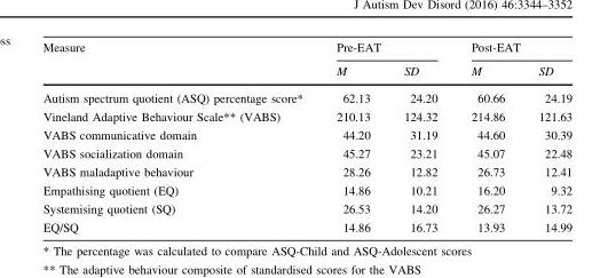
<table><thead><tr><td rowspan="2">Measure</td><td colspan="2">Pre-EAT</td><td colspan="2">Post-EAT</td></tr><tr><td>M</td><td>SD</td><td>M</td><td>SD</td></tr></thead><tbody><tr><td>Autism spectrum quotient (ASQ) percentage score*</td><td>62.13</td><td>24.20</td><td>60.66</td><td>24.19</td></tr><tr><td>Vineland Adaptive Behaviour Scale** (VABS)</td><td>210.13</td><td>124.32</td><td>214.86</td><td>121.63</td></tr><tr><td>VABS communicative domain</td><td>44.20</td><td>31.19</td><td>44.60</td><td>30.39</td></tr><tr><td>VABS socialization domain</td><td>45.27</td><td>23.21</td><td>45.07</td><td>22.48</td></tr><tr><td>VABS maladaptive behaviour</td><td>28.26</td><td>12.82</td><td>26.73</td><td>12.41</td></tr><tr><td>Empathising quotient (EQ)</td><td>14.86</td><td>10.21</td><td>16.20</td><td>9.32</td></tr><tr><td>Systemising quotient (SQ)</td><td>26.53</td><td>14.20</td><td>26.27</td><td>13.72</td></tr><tr><td>EQ/SQ</td><td>14.86</td><td>16.73</td><td>13.93</td><td>14.99</td></tr></tbody></table>